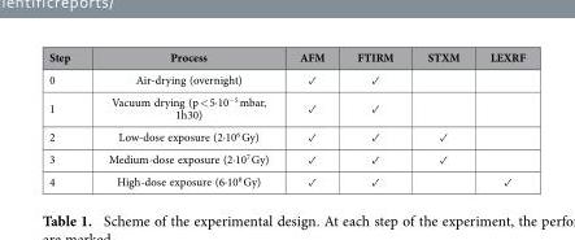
<table><thead><tr><td>Step</td><td>Process</td><td>AFM</td><td>FTIRM</td><td>STXM</td><td>LEXRF</td></tr></thead><tbody><tr><td>0</td><td>Air-drying (overnight)</td><td>✓</td><td>✓</td><td></td><td></td></tr><tr><td>1</td><td>Vacuum drying (p &lt; 5∙10<sup>−5</sup> mbar, 1h30)</td><td>✓</td><td>✓</td><td></td><td></td></tr><tr><td>2</td><td>Low-dose exposure (2∙10<sup>6</sup> Gy)</td><td>✓</td><td>✓</td><td>✓</td><td></td></tr><tr><td>3</td><td>Medium-dose exposure (2∙10<sup>7</sup> Gy)</td><td>✓</td><td>✓</td><td>✓</td><td></td></tr><tr><td>4</td><td>High-dose exposure (6∙10<sup>8</sup> Gy)</td><td>✓</td><td>✓</td><td></td><td>✓</td></tr></tbody></table>